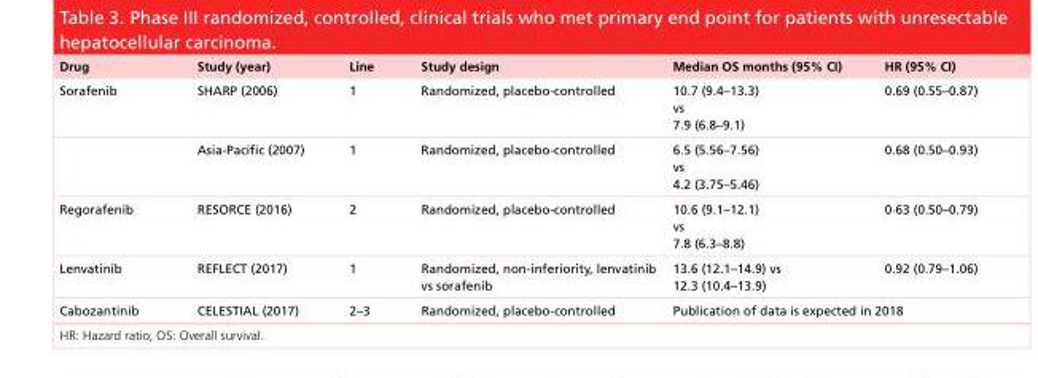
<table><thead><tr><td>Drug</td><td>Study (year)</td><td>Line</td><td>Study design</td><td>Median OS months (95% CI)</td><td>HR (95% CI)</td></tr></thead><tbody><tr><td rowspan="2">Sorafenib</td><td>SHARP (2006)</td><td>1</td><td>Randomized, placebo-controlled</td><td>10.7 (9.4–13.3) vs 7.9 (6.8–9.1)</td><td>0.69 (0.55–0.87)</td></tr><tr><td>Asia-Pacific (2007)</td><td>1</td><td>Randomized, placebo-controlled</td><td>6.5 (5.56–7.56) vs 4.2 (3.75–5.46)</td><td>0.68 (0.50–0.93)</td></tr><tr><td>Regorafenib</td><td>RESORCE (2016)</td><td>2</td><td>Randomized, placebo-controlled</td><td>10.6 (9.1–12.1) vs 7.8 (6.3–8.8)</td><td>0·63 (0.50–0.79)</td></tr><tr><td>Lenvatinib</td><td>REFLECT (2017)</td><td>1</td><td>Randomized, non-inferiority, lenvatinib vs sorafenib</td><td>13.6 (12.1–14.9) vs 12.3 (10.4–13.9)</td><td>0.92 (0.79–1.06)</td></tr><tr><td>Cabozantinib</td><td>CELESTIAL (2017)</td><td>2–3</td><td>Randomized, placebo-controlled</td><td colspan="2">Publication of data is expected in 2018</td></tr></tbody></table>